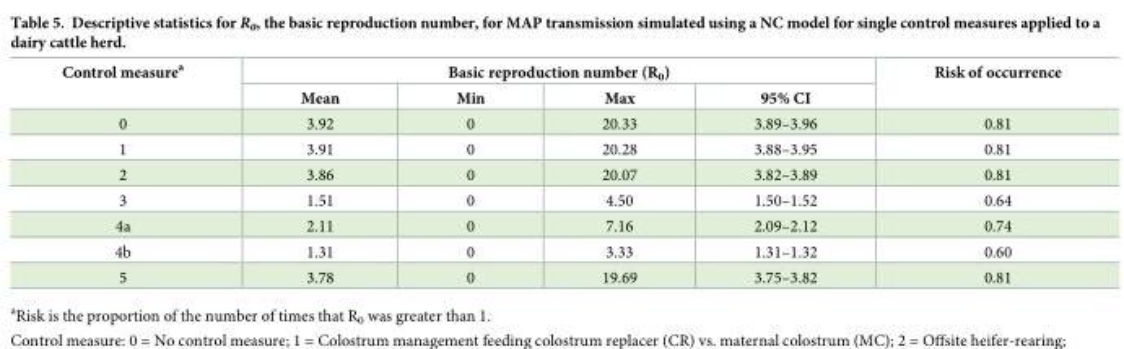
<table><thead><tr><td rowspan="2">Control measure<sup>a</sup></td><td colspan="4">Basic reproduction number (R<sub>0</sub>)</td><td rowspan="2">Risk of occurrence</td></tr><tr><td>Mean</td><td>Min</td><td>Max</td><td>95% CI</td></tr></thead><tbody><tr><td>0</td><td>3.92</td><td>0</td><td>20.33</td><td>3.89–3.96</td><td>0.81</td></tr><tr><td>1</td><td>3.91</td><td>0</td><td>20.28</td><td>3.88–3.95</td><td>0.81</td></tr><tr><td>2</td><td>3.86</td><td>0</td><td>20.07</td><td>3.82–3.89</td><td>0.81</td></tr><tr><td>3</td><td>1.51</td><td>0</td><td>4.50</td><td>1.50–1.52</td><td>0.64</td></tr><tr><td>4a</td><td>2.11</td><td>0</td><td>7.16</td><td>2.09–2.12</td><td>0.74</td></tr><tr><td>4b</td><td>1.31</td><td>0</td><td>3.33</td><td>1.31–1.32</td><td>0.60</td></tr><tr><td>5</td><td>3.78</td><td>0</td><td>19.69</td><td>3.75–3.82</td><td>0.81</td></tr></tbody></table>